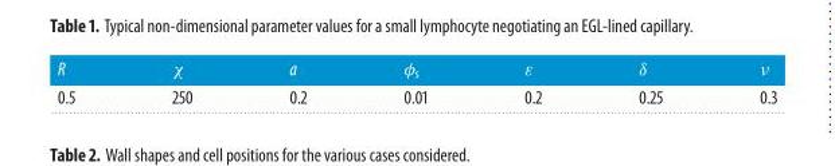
<table><thead><tr><td>R</td><td>χ</td><td>a</td><td>φ<sub>s</sub></td><td>ε</td><td>δ</td><td>ν</td></tr></thead><tbody><tr><td>0.5</td><td>250</td><td>0.2</td><td>0.01</td><td>0.2</td><td>0.25</td><td>0.3</td></tr></tbody></table>